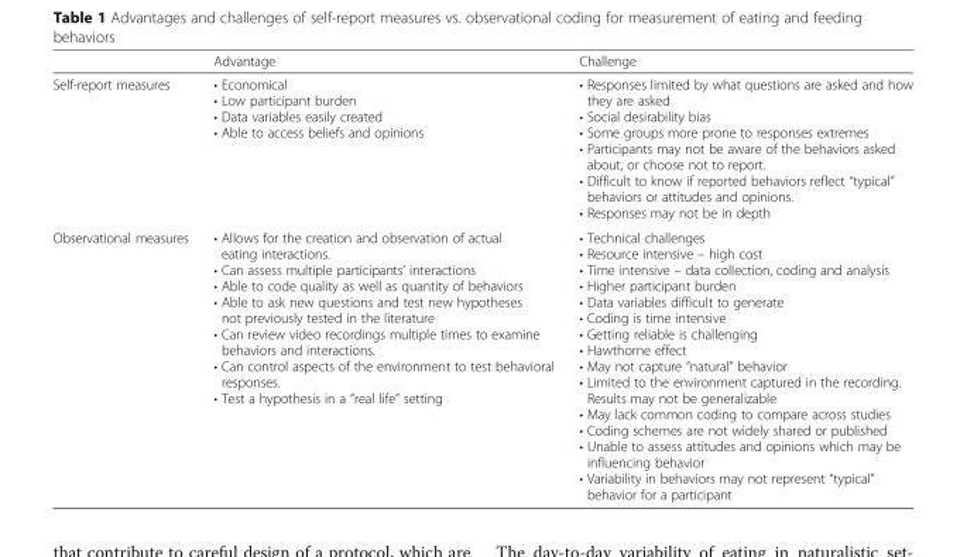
<table><thead><tr><td></td><td>Advantage</td><td>Challenge</td></tr></thead><tbody><tr><td>Self-report measures</td><td>• Economical • Low participant burden • Data variables easily created • Able to access beliefs and opinions</td><td>• Responses limited by what questions are asked and how they are asked • Social desirability bias • Some groups more prone to responses extremes • Participants may not be aware of the behaviors asked about, or choose not to report. • Difficult to know if reported behaviors reflect “typical” behaviors or attitudes and opinions. • Responses may not be in depth</td></tr><tr><td>Observational measures</td><td>• Allows for the creation and observation of actual eating interactions. • Can assess multiple participants’ interactions • Able to code quality as well as quantity of behaviors • Able to ask new questions and test new hypotheses not previously tested in the literature • Can review video recordings multiple times to examine behaviors and interactions. • Can control aspects of the environment to test behavioral responses. • Test a hypothesis in a “real life” setting</td><td>• Technical challenges • Resource intensive – high cost • Time intensive – data collection, coding and analysis • Higher participant burden • Data variables difficult to generate • Coding is time intensive • Getting reliable is challenging • Hawthorne effect • May not capture “natural” behavior • Limited to the environment captured in the recording. Results may not be generalizable • May lack common coding to compare across studies • Coding schemes are not widely shared or published • Unable to assess attitudes and opinions which may be influencing behavior • Variability in behaviors may not represent “typical” behavior for a participant</td></tr></tbody></table>